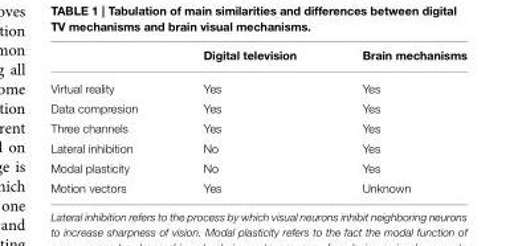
<table><thead><tr><td></td><td>Digital television</td><td>Brain mechanisms</td></tr></thead><tbody><tr><td>Virtual reality</td><td>Yes</td><td>Yes</td></tr><tr><td>Data compresion</td><td>Yes</td><td>Yes</td></tr><tr><td>Three channels</td><td>Yes</td><td>Yes</td></tr><tr><td>Lateral inhibition</td><td>No</td><td>Yes</td></tr><tr><td>Modal plasticity</td><td>No</td><td>Yes</td></tr><tr><td>Motion vectors</td><td>Yes</td><td>Unknown</td></tr></tbody></table>